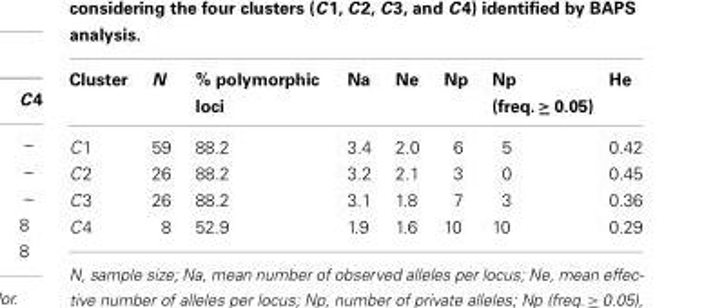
<table><thead><tr><td>Cluster</td><td>N</td><td>% polymorphic loci</td><td>Na</td><td>Ne</td><td>Np</td><td>Np (freq. ≥ 0.05)</td><td>He</td></tr></thead><tbody><tr><td>C1</td><td>59</td><td>88.2</td><td>3.4</td><td>2.0</td><td>6</td><td>5</td><td>0.42</td></tr><tr><td>C2</td><td>26</td><td>88.2</td><td>3.2</td><td>2.1</td><td>3</td><td>0</td><td>0.45</td></tr><tr><td>C3</td><td>26</td><td>88.2</td><td>3.1</td><td>1.8</td><td>7</td><td>3</td><td>0.36</td></tr><tr><td>C4</td><td>8</td><td>52.9</td><td>1.9</td><td>1.6</td><td>10</td><td>10</td><td>0.29</td></tr></tbody></table>